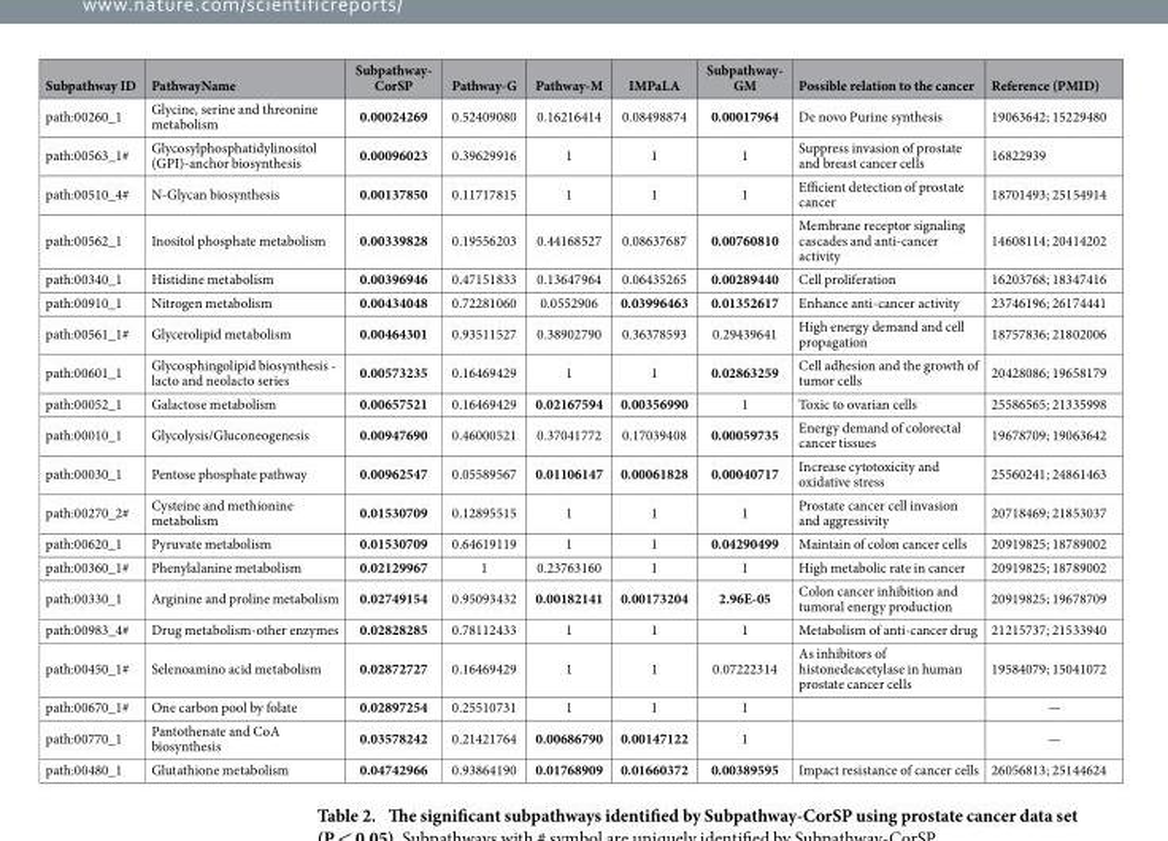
<table><thead><tr><td>Subpathway ID</td><td>PathwayName</td><td>Subpathway- CorSP</td><td>Pathway-G</td><td>Pathway-M</td><td>IMPaLA</td><td>Subpathway- GM</td><td>Possible relation to the cancer</td><td>Reference (PMID)</td></tr></thead><tbody><tr><td>path:00260_1</td><td>Glycine, serine and threonine metabolism</td><td>0.00024269</td><td>0.52409080</td><td>0.16216414</td><td>0.08498874</td><td>0.00017964</td><td>De novo Purine synthesis</td><td>19063642; 15229480</td></tr><tr><td>path:00563_1#</td><td>Glycosylphosphatidylinositol (GPI)-anchor biosynthesis</td><td>0.00096023</td><td>0.39629916</td><td>1</td><td>1</td><td>1</td><td>Suppress invasion of prostate and breast cancer cells</td><td>16822939</td></tr><tr><td>path:00510_4#</td><td>N-Glycan biosynthesis</td><td>0.00137850</td><td>0.11717815</td><td>1</td><td>1</td><td>1</td><td>Efficient detection of prostate cancer</td><td>18701493; 25154914</td></tr><tr><td>path:00562_1</td><td>Inositol phosphate metabolism</td><td>0.00339828</td><td>0.19556203</td><td>0.44168527</td><td>0.08637687</td><td>0.00760810</td><td>Membrane receptor signaling cascades and anti-cancer activity</td><td>14608114; 20414202</td></tr><tr><td>path:00340_1</td><td>Histidine metabolism</td><td>0.00396946</td><td>0.47151833</td><td>0.13647964</td><td>0.06435265</td><td>0.00289440</td><td>Cell proliferation</td><td>16203768; 18347416</td></tr><tr><td>path:00910_1</td><td>Nitrogen metabolism</td><td>0.00434048</td><td>0.72281060</td><td>0.0552906</td><td>0.03996463</td><td>0.01352617</td><td>Enhance anti-cancer activity</td><td>23746196; 26174441</td></tr><tr><td>path:00561_1#</td><td>Glycerolipid metabolism</td><td>0.00464301</td><td>0.93511527</td><td>0.38902790</td><td>0.36378593</td><td>0.29439641</td><td>High energy demand and cell propagation</td><td>18757836; 21802006</td></tr><tr><td>path:00601_1</td><td>Glycosphingolipid biosynthesis - lacto and neolacto series</td><td>0.00573235</td><td>0.16469429</td><td>1</td><td>1</td><td>0.02863259</td><td>Cell adhesion and the growth of tumor cells</td><td>20428086; 19658179</td></tr><tr><td>path:00052_1</td><td>Galactose metabolism</td><td>0.00657521</td><td>0.16469429</td><td>0.02167594</td><td>0.00356990</td><td>1</td><td>Toxic to ovarian cells</td><td>25586565; 21335998</td></tr><tr><td>path:00010_1</td><td>Glycolysis/Gluconeogenesis</td><td>0.00947690</td><td>0.46000521</td><td>0.37041772</td><td>0.17039408</td><td>0.00059735</td><td>Energy demand of colorectal cancer tissues</td><td>19678709; 19063642</td></tr><tr><td>path:00030_1</td><td>Pentose phosphate pathway</td><td>0.00962547</td><td>0.05589567</td><td>0.01106147</td><td>0.00061828</td><td>0.00040717</td><td>Increase cytotoxicity and oxidative stress</td><td>25560241; 24861463</td></tr><tr><td>path:00270_2#</td><td>Cysteine and methionine metabolism</td><td>0.01530709</td><td>0.12895515</td><td>1</td><td>1</td><td>1</td><td>Prostate cancer cell invasion and aggressivity</td><td>20718469; 21853037</td></tr><tr><td>path:00620_1</td><td>Pyruvate metabolism</td><td>0.01530709</td><td>0.64619119</td><td>1</td><td>1</td><td>0.04290499</td><td>Maintain of colon cancer cells</td><td>20919825; 18789002</td></tr><tr><td>path:00360_1#</td><td>Phenylalanine metabolism</td><td>0.02129967</td><td>1</td><td>0.23763160</td><td>1</td><td>1</td><td>High metabolic rate in cancer</td><td>20919825; 18789002</td></tr><tr><td>path:00330_1</td><td>Arginine and proline metabolism</td><td>0.02749154</td><td>0.95093432</td><td>0.00182141</td><td>0.00173204</td><td>2.96E-05</td><td>Colon cancer inhibition and tumoral energy production</td><td>20919825; 19678709</td></tr><tr><td>path:00983_4#</td><td>Drug metabolism-other enzymes</td><td>0.02828285</td><td>0.78112433</td><td>1</td><td>1</td><td>1</td><td>Metabolism of anti-cancer drug</td><td>21215737; 21533940</td></tr><tr><td>path:00450_1#</td><td>Selenoamino acid metabolism</td><td>0.02872727</td><td>0.16469429</td><td>1</td><td>1</td><td>0.07222314</td><td>As inhibitors of histonedeacetylase in human prostate cancer cells</td><td>19584079; 15041072</td></tr><tr><td>path:00670_1#</td><td>One carbon pool by folate</td><td>0.02897254</td><td>0.25510731</td><td>1</td><td>1</td><td>1</td><td></td><td>—</td></tr><tr><td>path:00770_1</td><td>Pantothenate and CoA biosynthesis</td><td>0.03578242</td><td>0.21421764</td><td>0.00686790</td><td>0.00147122</td><td>1</td><td></td><td>—</td></tr><tr><td>path:00480_1</td><td>Glutathione metabolism</td><td>0.04742966</td><td>0.93864190</td><td>0.01768909</td><td>0.01660372</td><td>0.00389595</td><td>Impact resistance of cancer cells</td><td>26056813; 25144624</td></tr></tbody></table>